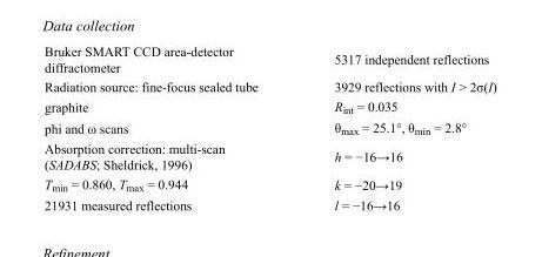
<table><tbody><tr><td>Bruker SMART CCD area-detector diffractometer</td><td>5317 independent reflections</td></tr><tr><td>Radiation source: fine-focus sealed tube</td><td>3929 reflections with I &gt; 2σ(I)</td></tr><tr><td>graphite</td><td>R<sub>int</sub> = 0.035</td></tr><tr><td>phi and ω scans</td><td>θ<sub>max</sub> = 25.1°, θ<sub>min</sub> = 2.8°</td></tr><tr><td>Absorption correction: multi-scan (SADABS; Sheldrick, 1996)</td><td>h = −16→16</td></tr><tr><td>T<sub>min</sub> = 0.860, T<sub>max</sub> = 0.944</td><td>k = −20→19</td></tr><tr><td>21931 measured reflections</td><td>l = −16→16</td></tr></tbody></table>